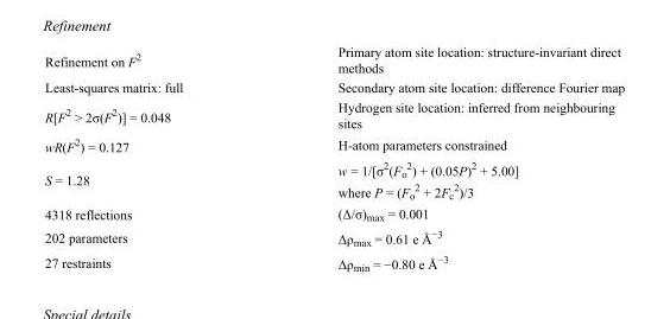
<table><tbody><tr><td>Refinement on F<sup>2</sup></td><td>Primary atom site location: structure-invariant direct methods</td></tr><tr><td>Least-squares matrix: full</td><td>Secondary atom site location: difference Fourier map</td></tr><tr><td>R[F<sup>2</sup> &gt; 2σ(F<sup>2</sup>)] = 0.048</td><td>Hydrogen site location: inferred from neighbouring sites</td></tr><tr><td>wR(F<sup>2</sup>) = 0.127</td><td>H-atom parameters constrained</td></tr><tr><td>S = 1.28</td><td>w = 1/[σ<sup>2</sup>(F<sub>o</sub> <sup>2</sup>) + (0.05P)<sup>2</sup> + 5.00] where P = (F<sub>o</sub> <sup>2</sup> + 2F<sub>c</sub> <sup>2</sup>)/3</td></tr><tr><td>4318 reflections</td><td>(Δ/σ)<sub>max</sub> = 0.001</td></tr><tr><td>202 parameters</td><td>Δρ<sub>max</sub> = 0.61 e Å<sup>−3</sup></td></tr><tr><td>27 restraints</td><td>Δρ<sub>min</sub> = −0.80 e Å<sup>−3</sup></td></tr></tbody></table>